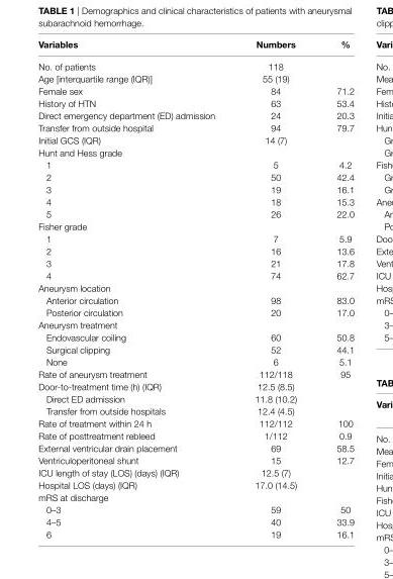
<table><thead><tr><td>Variables</td><td>numbers</td><td>%</td></tr></thead><tbody><tr><td>No. of patients</td><td>118</td><td></td></tr><tr><td>Age [interquartile range (IQR)]</td><td>55 (19)</td><td></td></tr><tr><td>Female sex</td><td>84</td><td>71.2</td></tr><tr><td>History of HTN</td><td>63</td><td>53.4</td></tr><tr><td>Direct emergency department (ED) admission</td><td>24</td><td>20.3</td></tr><tr><td>Transfer from outside hospital</td><td>94</td><td>79.7</td></tr><tr><td>Initial GCS (IQR)</td><td>14 (7)</td><td></td></tr><tr><td colspan="3">Hunt and Hess grade</td></tr><tr><td>1</td><td>5</td><td>4.2</td></tr><tr><td>2</td><td>50</td><td>42.4</td></tr><tr><td>3</td><td>19</td><td>16.1</td></tr><tr><td>4</td><td>18</td><td>15.3</td></tr><tr><td>5</td><td>26</td><td>22.0</td></tr><tr><td colspan="3">Fisher grade</td></tr><tr><td>1</td><td>7</td><td>5.9</td></tr><tr><td>2</td><td>16</td><td>13.6</td></tr><tr><td>3</td><td>21</td><td>17.8</td></tr><tr><td>4</td><td>74</td><td>62.7</td></tr><tr><td colspan="3">Aneurysm location</td></tr><tr><td>Anterior circulation</td><td>98</td><td>83.0</td></tr><tr><td>Posterior circulation</td><td>20</td><td>17.0</td></tr><tr><td colspan="3">Aneurysm treatment</td></tr><tr><td>Endovascular coiling</td><td>60</td><td>50.8</td></tr><tr><td>Surgical clipping</td><td>52</td><td>44.1</td></tr><tr><td>None</td><td>6</td><td>5.1</td></tr><tr><td>Rate of aneurysm treatment</td><td>112/118</td><td>95</td></tr><tr><td>Door-to-treatment time (h) (IQR)</td><td>12.5 (8.5)</td><td></td></tr><tr><td>Direct ED admission</td><td>11.8 (10.2)</td><td></td></tr><tr><td>Transfer from outside hospitals</td><td>12.4 (4.5)</td><td></td></tr><tr><td>Rate of treatment within 24 h</td><td>112/112</td><td>100</td></tr><tr><td>Rate of posttreatment rebleed</td><td>1/112</td><td>0.9</td></tr><tr><td>External ventricular drain placement</td><td>69</td><td>58.5</td></tr><tr><td>Ventriculoperitoneal shunt</td><td>15</td><td>12.7</td></tr><tr><td>ICU length of stay (LOS) (days) (IQR)</td><td>12.5 (7)</td><td></td></tr><tr><td>Hospital LOS (days) (IQR)</td><td>17.0 (14.5)</td><td></td></tr><tr><td colspan="3">mRS at discharge</td></tr><tr><td>0–3</td><td>59</td><td>50</td></tr><tr><td>4–5</td><td>40</td><td>33.9</td></tr><tr><td>6</td><td>19</td><td>16.1</td></tr></tbody></table>